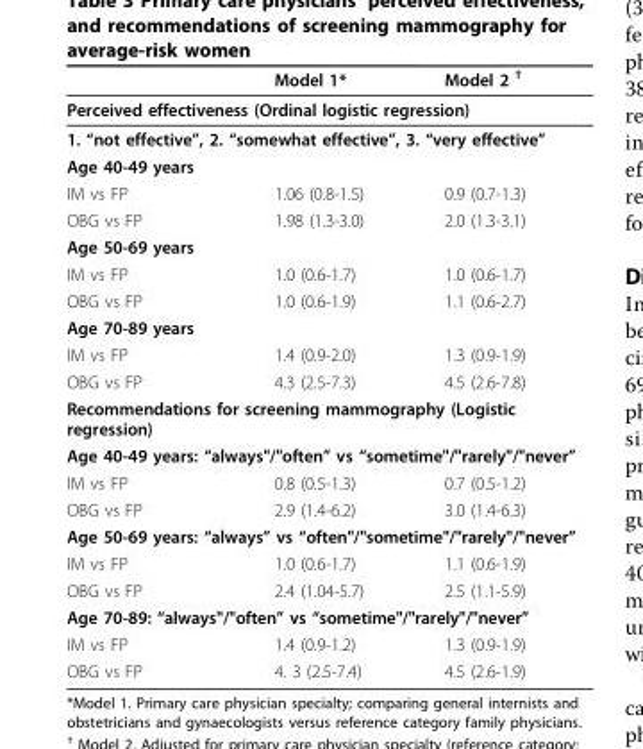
<table><thead><tr><td></td><td>Model 1*</td><td>Model 2 <sup>†</sup></td></tr></thead><tbody><tr><td colspan="3">Perceived effectiveness (Ordinal logistic regression)</td></tr><tr><td colspan="3">1. “not effective”, 2. “somewhat effective”, 3. “very effective”</td></tr><tr><td colspan="3">Age 40-49 years</td></tr><tr><td>IM vs FP</td><td>1.06 (0.8-1.5)</td><td>0.9 (0.7-1.3)</td></tr><tr><td>OBG vs FP</td><td>1.98 (1.3-3.0)</td><td>2.0 (1.3-3.1)</td></tr><tr><td colspan="3">Age 50-69 years</td></tr><tr><td>IM vs FP</td><td>1.0 (0.6-1.7)</td><td>1.0 (0.6-1.7)</td></tr><tr><td>OBG vs FP</td><td>1.0 (0.6-1.9)</td><td>1.1 (0.6-2.7)</td></tr><tr><td colspan="3">Age 70-89 years</td></tr><tr><td>IM vs FP</td><td>1.4 (0.9-2.0)</td><td>1.3 (0.9-1.9)</td></tr><tr><td>OBG vs FP</td><td>4.3 (2.5-7.3)</td><td>4.5 (2.6-7.8)</td></tr><tr><td colspan="3">Recommendations for screening mammography (Logistic regression)</td></tr><tr><td colspan="3">Age 40-49 years: “always&quot;/&quot;often” vs “sometime&quot;/&quot;rarely&quot;/&quot;never”</td></tr><tr><td>IM vs FP</td><td>0.8 (0.5-1.3)</td><td>0.7 (0.5-1.2)</td></tr><tr><td>OBG vs FP</td><td>2.9 (1.4-6.2)</td><td>3.0 (1.4-6.3)</td></tr><tr><td colspan="3">Age 50-69 years: “always” vs “often&quot;/&quot;sometime&quot;/&quot;rarely&quot;/&quot;never”</td></tr><tr><td>IM vs FP</td><td>1.0 (0.6-1.7)</td><td>1.1 (0.6-1.9)</td></tr><tr><td>OBG vs FP</td><td>2.4 (1.04-5.7)</td><td>2.5 (1.1-5.9)</td></tr><tr><td colspan="3">Age 70-89: “always&quot;/&quot;often” vs “sometime&quot;/&quot;rarely&quot;/&quot;never”</td></tr><tr><td>IM vs FP</td><td>1.4 (0.9-1.2)</td><td>1.3 (0.9-1.9)</td></tr><tr><td>OBG vs FP</td><td>4. 3 (2.5-7.4)</td><td>4.5 (2.6-1.9)</td></tr></tbody></table>